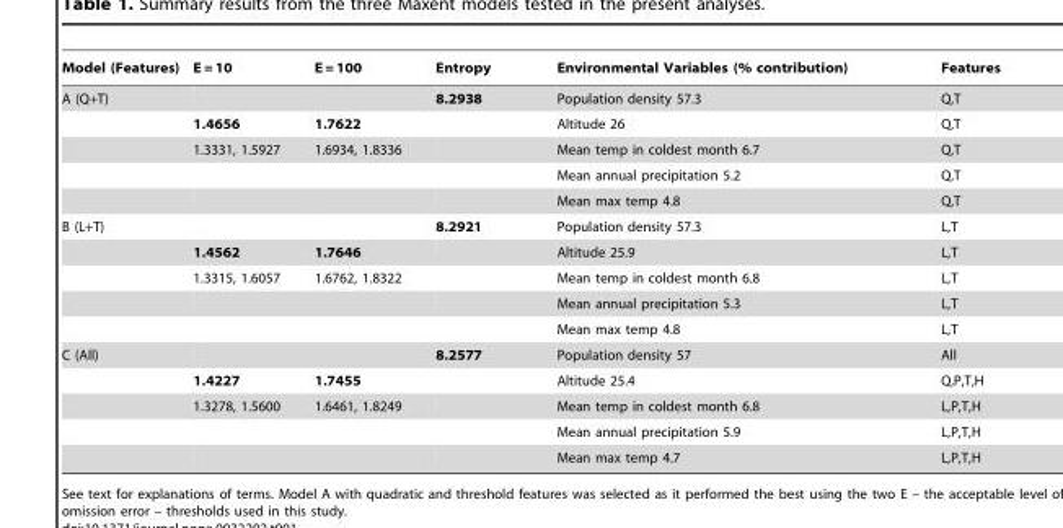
<table><thead><tr><td>Model (Features)</td><td>E = 10</td><td>E = 100</td><td>Entropy</td><td>Environmental Variables (% contribution)</td><td>Features</td></tr></thead><tbody><tr><td rowspan="5">A (Q+T)</td><td></td><td></td><td>8.2938</td><td>Population density 57.3</td><td>Q,T</td></tr><tr><td>1.4656</td><td>1.7622</td><td></td><td>Altitude 26</td><td>Q,T</td></tr><tr><td>1.3331, 1.5927</td><td>1.6934, 1.8336</td><td></td><td>Mean temp in coldest month 6.7</td><td>Q,T</td></tr><tr><td></td><td></td><td></td><td>Mean annual precipitation 5.2</td><td>Q,T</td></tr><tr><td></td><td></td><td></td><td>Mean max temp 4.8</td><td>Q,T</td></tr><tr><td rowspan="5">B (L+T)</td><td></td><td></td><td>8.2921</td><td>Population density 57.3</td><td>L,T</td></tr><tr><td>1.4562</td><td>1.7646</td><td></td><td>Altitude 25.9</td><td>L,T</td></tr><tr><td>1.3315, 1.6057</td><td>1.6762, 1.8322</td><td></td><td>Mean temp in coldest month 6.8</td><td>L,T</td></tr><tr><td></td><td></td><td></td><td>Mean annual precipitation 5.3</td><td>L,T</td></tr><tr><td></td><td></td><td></td><td>Mean max temp 4.8</td><td>L,T</td></tr><tr><td rowspan="5">C (All)</td><td></td><td></td><td>8.2577</td><td>Population density 57</td><td>All</td></tr><tr><td>1.4227</td><td>1.7455</td><td></td><td>Altitude 25.4</td><td>Q,P,T,H</td></tr><tr><td>1.3278, 1.5600</td><td>1.6461, 1.8249</td><td></td><td>Mean temp in coldest month 6.8</td><td>L,P,T,H</td></tr><tr><td></td><td></td><td></td><td>Mean annual precipitation 5.9</td><td>L,P,T,H</td></tr><tr><td></td><td></td><td></td><td>Mean max temp 4.7</td><td>L,P,T,H</td></tr></tbody></table>